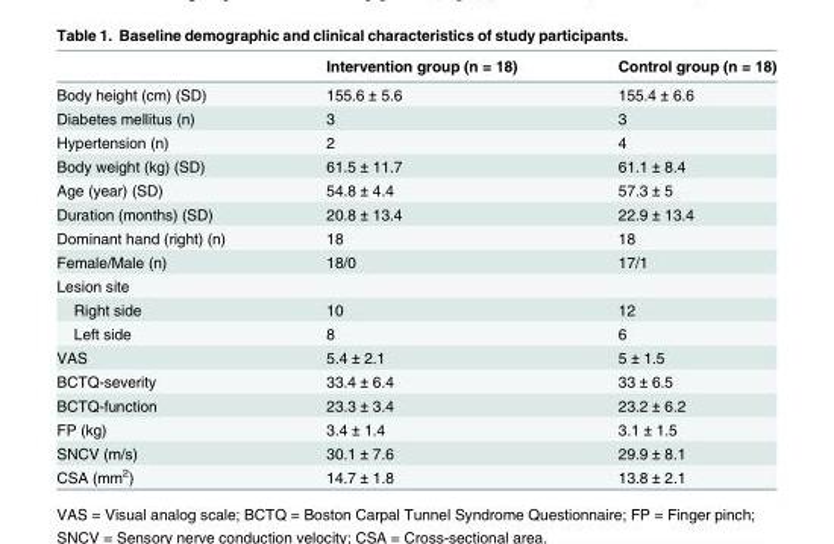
<table><thead><tr><td></td><td>Intervention group (n = 18)</td><td>Control group (n = 18)</td></tr></thead><tbody><tr><td>Body height (cm) (SD)</td><td>155.6 ± 5.6</td><td>155.4 ± 6.6</td></tr><tr><td>Diabetes mellitus (n)</td><td>3</td><td>3</td></tr><tr><td>Hypertension (n)</td><td>2</td><td>4</td></tr><tr><td>Body weight (kg) (SD)</td><td>61.5 ± 11.7</td><td>61.1 ± 8.4</td></tr><tr><td>Age (year) (SD)</td><td>54.8 ± 4.4</td><td>57.3 ± 5</td></tr><tr><td>Duration (months) (SD)</td><td>20.8 ± 13.4</td><td>22.9 ± 13.4</td></tr><tr><td>Dominant hand (right) (n)</td><td>18</td><td>18</td></tr><tr><td>Female/Male (n)</td><td>18/0</td><td>17/1</td></tr><tr><td colspan="3">Lesion site</td></tr><tr><td>Right side</td><td>10</td><td>12</td></tr><tr><td>Left side</td><td>8</td><td>6</td></tr><tr><td>VAS</td><td>5.4 ± 2.1</td><td>5 ± 1.5</td></tr><tr><td>BCTQ-severity</td><td>33.4 ± 6.4</td><td>33 ± 6.5</td></tr><tr><td>BCTQ-function</td><td>23.3 ± 3.4</td><td>23.2 ± 6.2</td></tr><tr><td>FP (kg)</td><td>3.4 ± 1.4</td><td>3.1 ± 1.5</td></tr><tr><td>SNCV (m/s)</td><td>30.1 ± 7.6</td><td>29.9 ± 8.1</td></tr><tr><td>CSA (mm<sup>2</sup>)</td><td>14.7 ± 1.8</td><td>13.8 ± 2.1</td></tr></tbody></table>